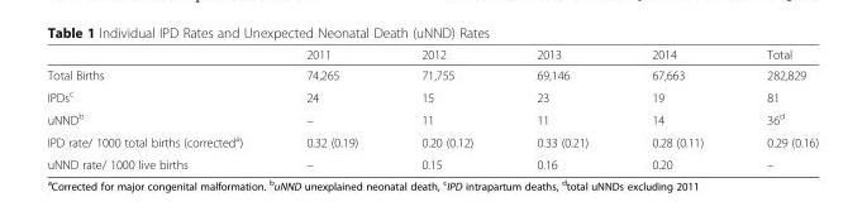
<table><thead><tr><td></td><td>2011</td><td>2012</td><td>2013</td><td>2014</td><td>Total</td></tr></thead><tbody><tr><td>Total Births</td><td>74,265</td><td>71,755</td><td>69,146</td><td>67,663</td><td>282,829</td></tr><tr><td>IPDs<sup>c</sup></td><td>24</td><td>15</td><td>23</td><td>19</td><td>81</td></tr><tr><td>uNND<sup>b</sup></td><td>–</td><td>11</td><td>11</td><td>14</td><td>36<sup>d</sup></td></tr><tr><td>IPD rate/ 1000 total births (corrected<sup>a</sup>)</td><td>0.32 (0.19)</td><td>0.20 (0.12)</td><td>0.33 (0.21)</td><td>0.28 (0.11)</td><td>0.29 (0.16)</td></tr><tr><td>uNND rate/ 1000 live births</td><td>–</td><td>0.15</td><td>0.16</td><td>0.20</td><td>–</td></tr></tbody></table>